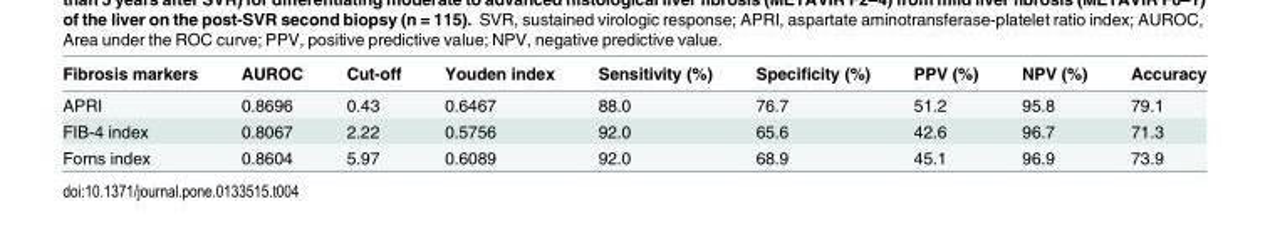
<table><thead><tr><td>Fibrosis markers</td><td>AUROC</td><td>Cut-off</td><td>Youden index</td><td>Sensitivity (%)</td><td>Specificity (%)</td><td>PPV (%)</td><td>NPV (%)</td><td>Accuracy</td></tr></thead><tbody><tr><td>APRI</td><td>0.8696</td><td>0.43</td><td>0.6467</td><td>88.0</td><td>76.7</td><td>51.2</td><td>95.8</td><td>79.1</td></tr><tr><td>FIB-4 index</td><td>0.8067</td><td>2.22</td><td>0.5756</td><td>92.0</td><td>65.6</td><td>42.6</td><td>96.7</td><td>71.3</td></tr><tr><td>Forns index</td><td>0.8604</td><td>5.97</td><td>0.6089</td><td>92.0</td><td>68.9</td><td>45.1</td><td>96.9</td><td>73.9</td></tr></tbody></table>